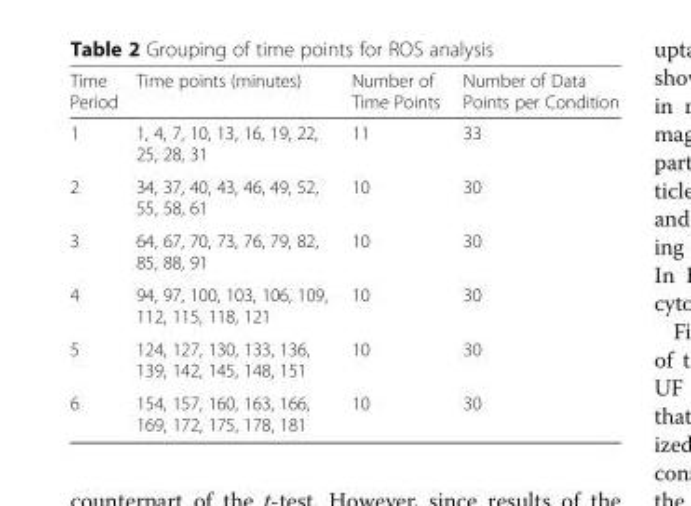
<table><thead><tr><td>Time Period</td><td>Time points (minutes)</td><td>Number of Time Points</td><td>Number of Data Points per Condition</td></tr></thead><tbody><tr><td>1</td><td>1, 4, 7, 10, 13, 16, 19, 22, 25, 28, 31</td><td>11</td><td>33</td></tr><tr><td>2</td><td>34, 37, 40, 43, 46, 49, 52, 55, 58, 61</td><td>10</td><td>30</td></tr><tr><td>3</td><td>64, 67, 70, 73, 76, 79, 82, 85, 88, 91</td><td>10</td><td>30</td></tr><tr><td>4</td><td>94, 97, 100, 103, 106, 109, 112, 115, 118, 121</td><td>10</td><td>30</td></tr><tr><td>5</td><td>124, 127, 130, 133, 136, 139, 142, 145, 148, 151</td><td>10</td><td>30</td></tr><tr><td>6</td><td>154, 157, 160, 163, 166, 169, 172, 175, 178, 181</td><td>10</td><td>30</td></tr></tbody></table>